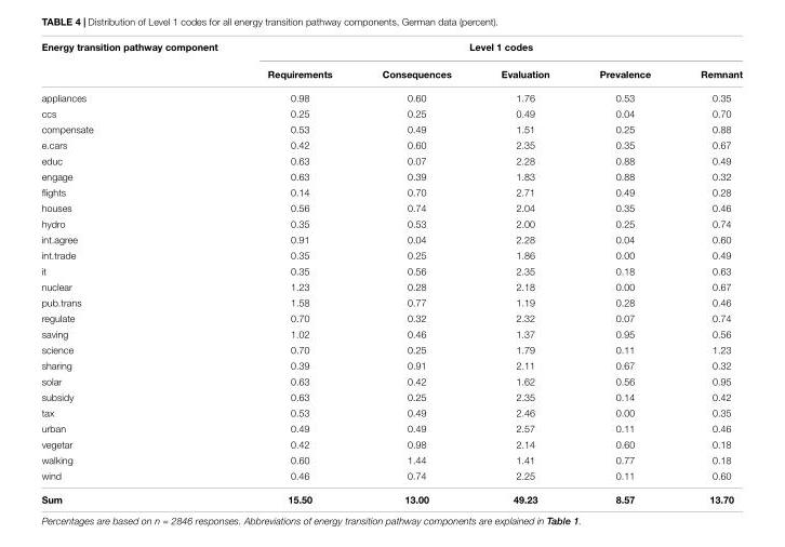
<table><thead><tr><td rowspan="2">Energy transition pathway component</td><td colspan="5">Level 1 codes</td></tr><tr><td>Requirements</td><td>Consequences</td><td>Evaluation</td><td>Prevalence</td><td>Remnant</td></tr></thead><tbody><tr><td>appliances</td><td>0.98</td><td>0.60</td><td>1.76</td><td>0.53</td><td>0.35</td></tr><tr><td>ccs</td><td>0.25</td><td>0.25</td><td>0.49</td><td>0.04</td><td>0.70</td></tr><tr><td>compensate</td><td>0.53</td><td>0.49</td><td>1.51</td><td>0.25</td><td>0.88</td></tr><tr><td>e.cars</td><td>0.42</td><td>0.60</td><td>2.35</td><td>0.35</td><td>0.67</td></tr><tr><td>educ</td><td>0.63</td><td>0.07</td><td>2.28</td><td>0.88</td><td>0.49</td></tr><tr><td>engage</td><td>0.63</td><td>0.39</td><td>1.83</td><td>0.88</td><td>0.32</td></tr><tr><td>flights</td><td>0.14</td><td>0.70</td><td>2.71</td><td>0.49</td><td>0.28</td></tr><tr><td>houses</td><td>0.56</td><td>0.74</td><td>2.04</td><td>0.35</td><td>0.46</td></tr><tr><td>hydro</td><td>0.35</td><td>0.53</td><td>2.00</td><td>0.25</td><td>0.74</td></tr><tr><td>int.agree</td><td>0.91</td><td>0.04</td><td>2.28</td><td>0.04</td><td>0.60</td></tr><tr><td>int.trade</td><td>0.35</td><td>0.25</td><td>1.86</td><td>0.00</td><td>0.49</td></tr><tr><td>it</td><td>0.35</td><td>0.56</td><td>2.35</td><td>0.18</td><td>0.63</td></tr><tr><td>nuclear</td><td>1.23</td><td>0.28</td><td>2.18</td><td>0.00</td><td>0.67</td></tr><tr><td>pub.trans</td><td>1.58</td><td>0.77</td><td>1.19</td><td>0.28</td><td>0.46</td></tr><tr><td>regulate</td><td>0.70</td><td>0.32</td><td>2.32</td><td>0.07</td><td>0.74</td></tr><tr><td>saving</td><td>1.02</td><td>0.46</td><td>1.37</td><td>0.95</td><td>0.56</td></tr><tr><td>science</td><td>0.70</td><td>0.25</td><td>1.79</td><td>0.11</td><td>1.23</td></tr><tr><td>sharing</td><td>0.39</td><td>0.91</td><td>2.11</td><td>0.67</td><td>0.32</td></tr><tr><td>solar</td><td>0.63</td><td>0.42</td><td>1.62</td><td>0.56</td><td>0.95</td></tr><tr><td>subsidy</td><td>0.63</td><td>0.25</td><td>2.35</td><td>0.14</td><td>0.42</td></tr><tr><td>tax</td><td>0.53</td><td>0.49</td><td>2.46</td><td>0.00</td><td>0.35</td></tr><tr><td>urban</td><td>0.49</td><td>0.49</td><td>2.57</td><td>0.11</td><td>0.46</td></tr><tr><td>vegetar</td><td>0.42</td><td>0.98</td><td>2.14</td><td>0.60</td><td>0.18</td></tr><tr><td>walking</td><td>0.60</td><td>1.44</td><td>1.41</td><td>0.77</td><td>0.18</td></tr><tr><td>wind</td><td>0.46</td><td>0.74</td><td>2.25</td><td>0.11</td><td>0.60</td></tr><tr><td>Sum</td><td>15.50</td><td>13.00</td><td>49.23</td><td>8.57</td><td>13.70</td></tr></tbody></table>